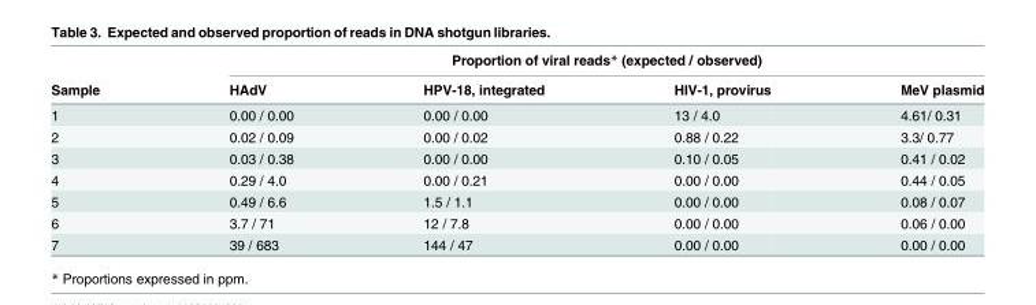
<table><thead><tr><td rowspan="2">Sample</td><td colspan="4">Proportion of viral reads* (expected / observed)</td></tr><tr><td>HAdV</td><td>HPV-18, integrated</td><td>HIV-1, provirus</td><td>MeV plasmid</td></tr></thead><tbody><tr><td>1</td><td>0.00 / 0.00</td><td>0.00 / 0.00</td><td>13 / 4.0</td><td>4.61/ 0.31</td></tr><tr><td>2</td><td>0.02 / 0.09</td><td>0.00 / 0.02</td><td>0.88 / 0.22</td><td>3.3/ 0.77</td></tr><tr><td>3</td><td>0.03 / 0.38</td><td>0.00 / 0.00</td><td>0.10 / 0.05</td><td>0.41 / 0.02</td></tr><tr><td>4</td><td>0.29 / 4.0</td><td>0.00 / 0.21</td><td>0.00 / 0.00</td><td>0.44 / 0.05</td></tr><tr><td>5</td><td>0.49 / 6.6</td><td>1.5 / 1.1</td><td>0.00 / 0.00</td><td>0.08 / 0.07</td></tr><tr><td>6</td><td>3.7 / 71</td><td>12 / 7.8</td><td>0.00 / 0.00</td><td>0.06 / 0.00</td></tr><tr><td>7</td><td>39 / 683</td><td>144 / 47</td><td>0.00 / 0.00</td><td>0.00 / 0.00</td></tr></tbody></table>